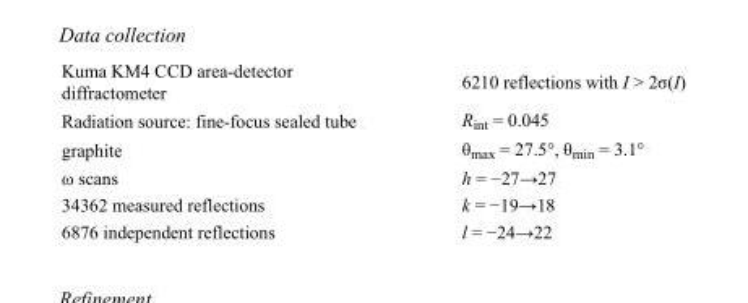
<table><tbody><tr><td>Kuma KM4 CCD area-detector diffractometer</td><td>6210 reflections with I &gt; 2σ(I)</td></tr><tr><td>Radiation source: fine-focus sealed tube</td><td>R<sub>int</sub> = 0.045</td></tr><tr><td>graphite</td><td>θ<sub>max</sub> = 27.5°, θ<sub>min</sub> = 3.1°</td></tr><tr><td>ω scans</td><td>h = −27→27</td></tr><tr><td>34362 measured reflections</td><td>k = −19→18</td></tr><tr><td>6876 independent reflections</td><td>l = −24→22</td></tr></tbody></table>